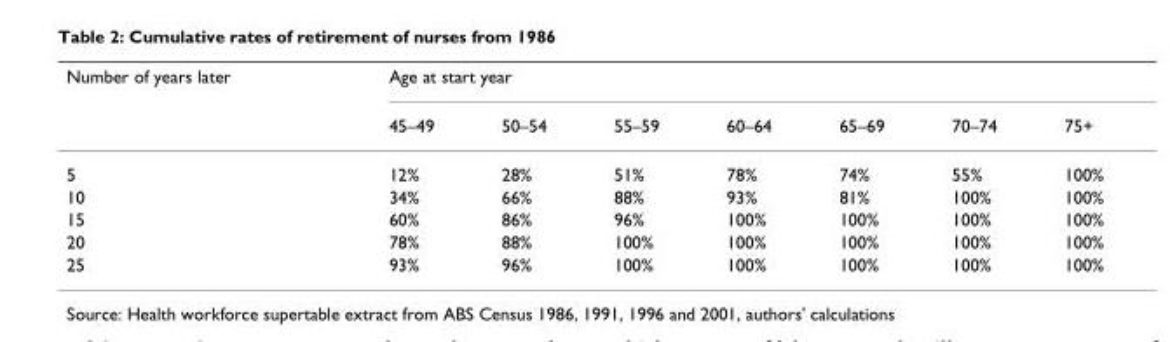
<table><thead><tr><td rowspan="2">Number of years later</td><td colspan="7">Age at start year</td></tr><tr><td>45–49</td><td>50–54</td><td>55–59</td><td>60–64</td><td>65–69</td><td>70–74</td><td>75+</td></tr></thead><tbody><tr><td>5</td><td>12%</td><td>28%</td><td>51%</td><td>78%</td><td>74%</td><td>55%</td><td>100%</td></tr><tr><td>10</td><td>34%</td><td>66%</td><td>88%</td><td>93%</td><td>81%</td><td>100%</td><td>100%</td></tr><tr><td>15</td><td>60%</td><td>86%</td><td>96%</td><td>100%</td><td>100%</td><td>100%</td><td>100%</td></tr><tr><td>20</td><td>78%</td><td>88%</td><td>100%</td><td>100%</td><td>100%</td><td>100%</td><td>100%</td></tr><tr><td>25</td><td>93%</td><td>96%</td><td>100%</td><td>100%</td><td>100%</td><td>100%</td><td>100%</td></tr></tbody></table>